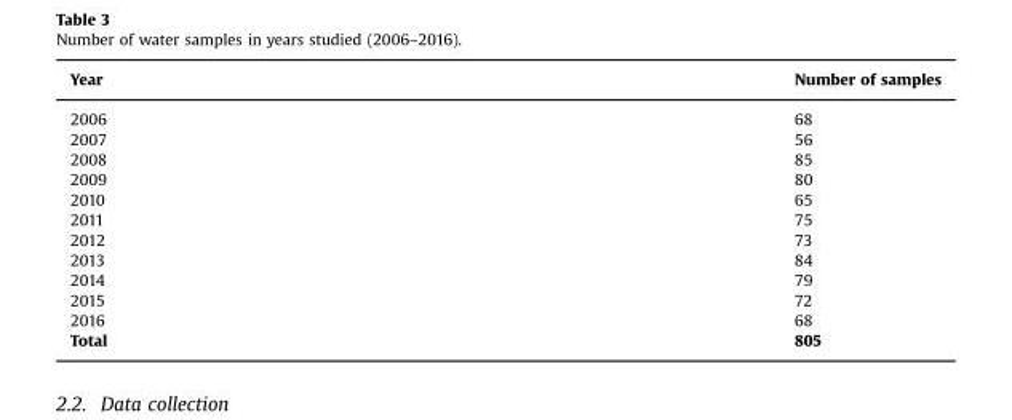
<table><thead><tr><td>Year</td><td>Number of samples</td></tr></thead><tbody><tr><td>2006</td><td>68</td></tr><tr><td>2007</td><td>56</td></tr><tr><td>2008</td><td>85</td></tr><tr><td>2009</td><td>80</td></tr><tr><td>2010</td><td>65</td></tr><tr><td>2011</td><td>75</td></tr><tr><td>2012</td><td>73</td></tr><tr><td>2013</td><td>84</td></tr><tr><td>2014</td><td>79</td></tr><tr><td>2015</td><td>72</td></tr><tr><td>2016</td><td>68</td></tr><tr><td>Total</td><td>805</td></tr></tbody></table>